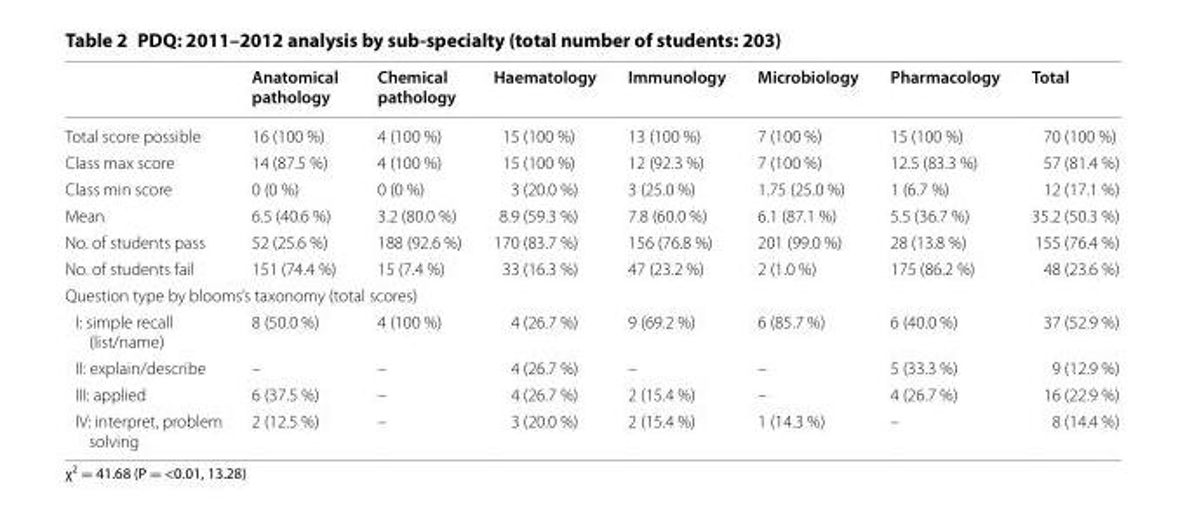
<table><thead><tr><td></td><td>Anatomical pathology</td><td>Chemical pathology</td><td>Haematology</td><td>Immunology</td><td>Microbiology</td><td>Pharmacology</td><td>Total</td></tr></thead><tbody><tr><td>Total score possible</td><td>16 (100 %)</td><td>4 (100 %)</td><td>15 (100 %)</td><td>13 (100 %)</td><td>7 (100 %)</td><td>15 (100 %)</td><td>70 (100 %)</td></tr><tr><td>Class max score</td><td>14 (87.5 %)</td><td>4 (100 %)</td><td>15 (100 %)</td><td>12 (92.3 %)</td><td>7 (100 %)</td><td>12.5 (83.3 %)</td><td>57 (81.4 %)</td></tr><tr><td>Class min score</td><td>0 (0 %)</td><td>0 (0 %)</td><td>3 (20.0 %)</td><td>3 (25.0 %)</td><td>1.75 (25.0 %)</td><td>1 (6.7 %)</td><td>12 (17.1 %)</td></tr><tr><td>Mean</td><td>6.5 (40.6 %)</td><td>3.2 (80.0 %)</td><td>8.9 (59.3 %)</td><td>7.8 (60.0 %)</td><td>6.1 (87.1 %)</td><td>5.5 (36.7 %)</td><td>35.2 (50.3 %)</td></tr><tr><td>No. of students pass</td><td>52 (25.6 %)</td><td>188 (92.6 %)</td><td>170 (83.7 %)</td><td>156 (76.8 %)</td><td>201 (99.0 %)</td><td>28 (13.8 %)</td><td>155 (76.4 %)</td></tr><tr><td>No. of students fail</td><td>151 (74.4 %)</td><td>15 (7.4 %)</td><td>33 (16.3 %)</td><td>47 (23.2 %)</td><td>2 (1.0 %)</td><td>175 (86.2 %)</td><td>48 (23.6 %)</td></tr><tr><td colspan="8">Question type by blooms’s taxonomy (total scores)</td></tr><tr><td>I: simple recall (list/name)</td><td>8 (50.0 %)</td><td>4 (100 %)</td><td>4 (26.7 %)</td><td>9 (69.2 %)</td><td>6 (85.7 %)</td><td>6 (40.0 %)</td><td>37 (52.9 %)</td></tr><tr><td>II: explain/describe</td><td>–</td><td>–</td><td>4 (26.7 %)</td><td>–</td><td>–</td><td>5 (33.3 %)</td><td>9 (12.9 %)</td></tr><tr><td>III: applied</td><td>6 (37.5 %)</td><td>–</td><td>4 (26.7 %)</td><td>2 (15.4 %)</td><td>–</td><td>4 (26.7 %)</td><td>16 (22.9 %)</td></tr><tr><td>IV: interpret, problem solving</td><td>2 (12.5 %)</td><td>–</td><td>3 (20.0 %)</td><td>2 (15.4 %)</td><td>1 (14.3 %)</td><td>–</td><td>8 (14.4 %)</td></tr></tbody></table>